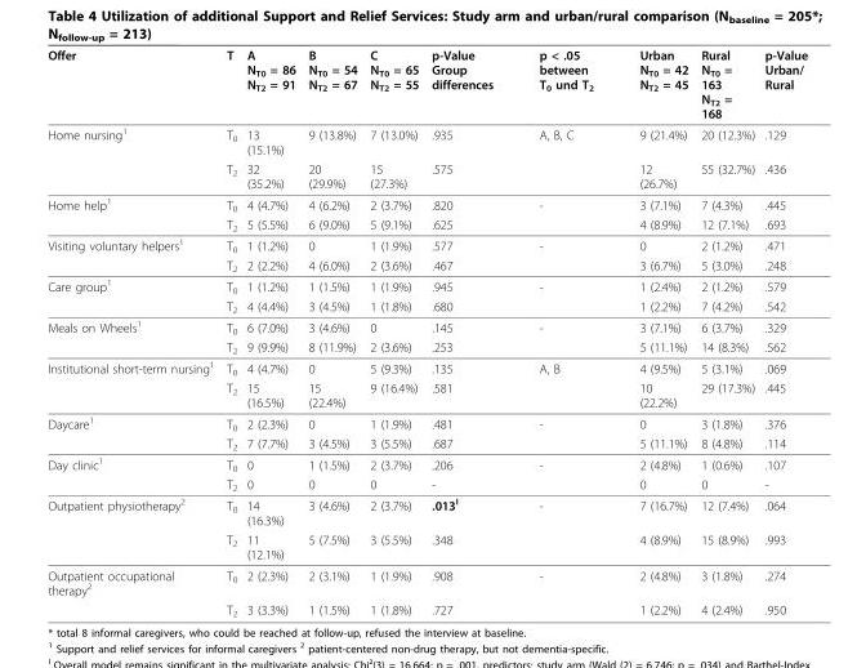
<table><thead><tr><td>Offer</td><td>T</td><td>A N<sub>T0</sub> = 86 N<sub>T2</sub> = 91</td><td>B N<sub>T0</sub> = 54 N<sub>T2</sub> = 67</td><td>C N<sub>T0</sub> = 65 N<sub>T2</sub> = 55</td><td>p-Value Group differences</td><td>p &lt; .05 between T<sub>0</sub> und T<sub>2</sub></td><td>Urban N<sub>T0</sub> = 42 N<sub>T2</sub> = 45</td><td>Rural N<sub>T0</sub> = 163 N<sub>T2</sub> = 168</td><td>p-Value Urban/ Rural</td></tr></thead><tbody><tr><td rowspan="2">Home nursing<sup>1</sup></td><td>T<sub>0</sub></td><td>13 (15.1%)</td><td>9 (13.8%)</td><td>7 (13.0%)</td><td>.935</td><td>A, B, C</td><td>9 (21.4%)</td><td>20 (12.3%)</td><td>.129</td></tr><tr><td>T<sub>2</sub></td><td>32 (35.2%)</td><td>20 (29.9%)</td><td>15 (27.3%)</td><td>.575</td><td></td><td>12 (26.7%)</td><td>55 (32.7%)</td><td>.436</td></tr><tr><td rowspan="2">Home help<sup>1</sup></td><td>T<sub>0</sub></td><td>4 (4.7%)</td><td>4 (6.2%)</td><td>2 (3.7%)</td><td>.820</td><td>-</td><td>3 (7.1%)</td><td>7 (4.3%)</td><td>.445</td></tr><tr><td>T<sub>2</sub></td><td>5 (5.5%)</td><td>6 (9.0%)</td><td>5 (9.1%)</td><td>.625</td><td></td><td>4 (8.9%)</td><td>12 (7.1%)</td><td>.693</td></tr><tr><td rowspan="2">Visiting voluntary helpers<sup>1</sup></td><td>T<sub>0</sub></td><td>1 (1.2%)</td><td>0</td><td>1 (1.9%)</td><td>.577</td><td>-</td><td>0</td><td>2 (1.2%)</td><td>.471</td></tr><tr><td>T<sub>2</sub></td><td>2 (2.2%)</td><td>4 (6.0%)</td><td>2 (3.6%)</td><td>.467</td><td></td><td>3 (6.7%)</td><td>5 (3.0%)</td><td>.248</td></tr><tr><td rowspan="2">Care group<sup>1</sup></td><td>T<sub>0</sub></td><td>1 (1.2%)</td><td>1 (1.5%)</td><td>1 (1.9%)</td><td>.945</td><td>-</td><td>1 (2.4%)</td><td>2 (1.2%)</td><td>.579</td></tr><tr><td>T<sub>2</sub></td><td>4 (4.4%)</td><td>3 (4.5%)</td><td>1 (1.8%)</td><td>.680</td><td></td><td>1 (2.2%)</td><td>7 (4.2%)</td><td>.542</td></tr><tr><td rowspan="2">Meals on Wheels<sup>1</sup></td><td>T<sub>0</sub></td><td>6 (7.0%)</td><td>3 (4.6%)</td><td>0</td><td>.145</td><td>-</td><td>3 (7.1%)</td><td>6 (3.7%)</td><td>.329</td></tr><tr><td>T<sub>2</sub></td><td>9 (9.9%)</td><td>8 (11.9%)</td><td>2 (3.6%)</td><td>.253</td><td></td><td>5 (11.1%)</td><td>14 (8.3%)</td><td>.562</td></tr><tr><td rowspan="2">Institutional short-term nursing<sup>1</sup></td><td>T<sub>0</sub></td><td>4 (4.7%)</td><td>0</td><td>5 (9.3%)</td><td>.135</td><td>A, B</td><td>4 (9.5%)</td><td>5 (3.1%)</td><td>.069</td></tr><tr><td>T<sub>2</sub></td><td>15 (16.5%)</td><td>15 (22.4%)</td><td>9 (16.4%)</td><td>.581</td><td></td><td>10 (22.2%)</td><td>29 (17.3%)</td><td>.445</td></tr><tr><td rowspan="2">Daycare<sup>1</sup></td><td>T<sub>0</sub></td><td>2 (2.3%)</td><td>0</td><td>1 (1.9%)</td><td>.481</td><td>-</td><td>0</td><td>3 (1.8%)</td><td>.376</td></tr><tr><td>T<sub>2</sub></td><td>7 (7.7%)</td><td>3 (4.5%)</td><td>3 (5.5%)</td><td>.687</td><td></td><td>5 (11.1%)</td><td>8 (4.8%)</td><td>.114</td></tr><tr><td rowspan="2">Day clinic<sup>1</sup></td><td>T<sub>0</sub></td><td>0</td><td>1 (1.5%)</td><td>2 (3.7%)</td><td>.206</td><td>-</td><td>2 (4.8%)</td><td>1 (0.6%)</td><td>.107</td></tr><tr><td>T<sub>2</sub></td><td>0</td><td>0</td><td>0</td><td>-</td><td></td><td>0</td><td>0</td><td>-</td></tr><tr><td rowspan="2">Outpatient physiotherapy<sup>2</sup></td><td>T<sub>0</sub></td><td>14 (16.3%)</td><td>3 (4.6%)</td><td>2 (3.7%)</td><td>.013<sup>I</sup></td><td>-</td><td>7 (16.7%)</td><td>12 (7.4%)</td><td>.064</td></tr><tr><td>T<sub>2</sub></td><td>11 (12.1%)</td><td>5 (7.5%)</td><td>3 (5.5%)</td><td>.348</td><td></td><td>4 (8.9%)</td><td>15 (8.9%)</td><td>.993</td></tr><tr><td rowspan="2">Outpatient occupational therapy<sup>2</sup></td><td>T<sub>0</sub></td><td>2 (2.3%)</td><td>2 (3.1%)</td><td>1 (1.9%)</td><td>.908</td><td>-</td><td>2 (4.8%)</td><td>3 (1.8%)</td><td>.274</td></tr><tr><td>T<sub>2</sub></td><td>3 (3.3%)</td><td>1 (1.5%)</td><td>1 (1.8%)</td><td>.727</td><td></td><td>1 (2.2%)</td><td>4 (2.4%)</td><td>.950</td></tr></tbody></table>